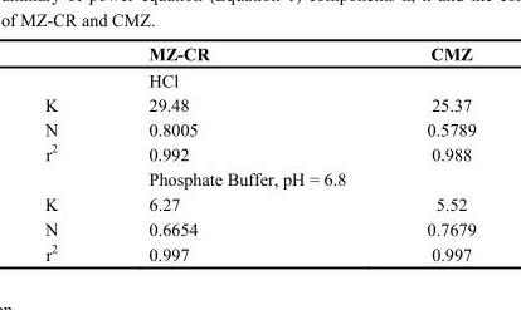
<table><thead><tr><td></td><td>MZ-CR</td><td>CMZ</td></tr></thead><tbody><tr><td></td><td>HCl</td><td></td></tr><tr><td>K</td><td>29.48</td><td>25.37</td></tr><tr><td>N</td><td>0.8005</td><td>0.5789</td></tr><tr><td rowspan="2">r<sup>2</sup></td><td>0.992</td><td>0.988</td></tr><tr><td>Phosphate Buffer, pH = 6.8</td><td></td></tr><tr><td>K</td><td>6.27</td><td>5.52</td></tr><tr><td>N</td><td>0.6654</td><td>0.7679</td></tr><tr><td>r<sup>2</sup></td><td>0.997</td><td>0.997</td></tr></tbody></table>